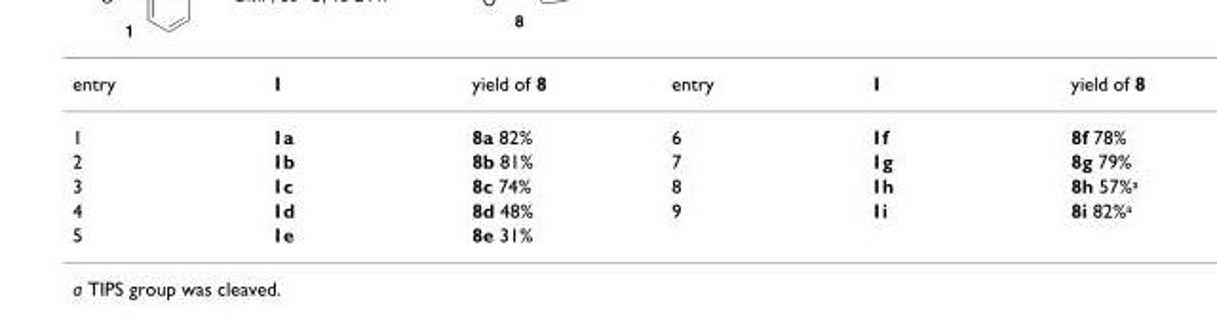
<table><tbody><tr><td>entry</td><td>1</td><td>yield of 8</td><td>entry</td><td>1</td><td>yield of 8</td></tr><tr><td>1</td><td>1a</td><td>8a 82%</td><td>6</td><td>1f</td><td>8f 78%</td></tr><tr><td>2</td><td>1b</td><td>8b 81%</td><td>7</td><td>1g</td><td>8g 79%</td></tr><tr><td>3</td><td>1c</td><td>8c 74%</td><td>8</td><td>1h</td><td>8h 57%<sup>a</sup></td></tr><tr><td>4</td><td>1d</td><td>8d 48%</td><td>9</td><td>1i</td><td>8i 82%<sup>a</sup></td></tr><tr><td>5</td><td>1e</td><td>8e 31%</td><td></td><td></td><td></td></tr></tbody></table>